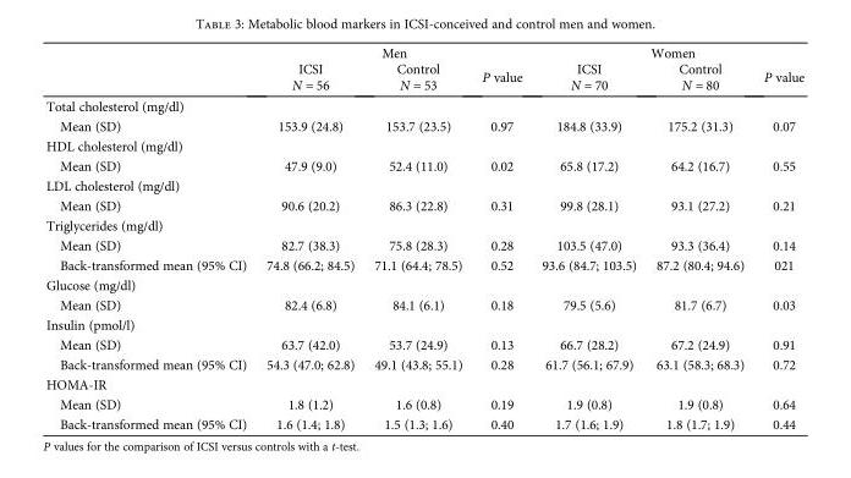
<table><thead><tr><td rowspan="2"></td><td colspan="3">Men</td><td colspan="3">Women</td></tr><tr><td>ICSI N = 56</td><td>Control N = 53</td><td>P value</td><td>ICSI N = 70</td><td>Control N = 80</td><td>P value</td></tr></thead><tbody><tr><td colspan="7">Total cholesterol (mg/dl)</td></tr><tr><td>Mean (SD)</td><td>153.9 (24.8)</td><td>153.7 (23.5)</td><td>0.97</td><td>184.8 (33.9)</td><td>175.2 (31.3)</td><td>0.07</td></tr><tr><td colspan="7">HDL cholesterol (mg/dl)</td></tr><tr><td>Mean (SD)</td><td>47.9 (9.0)</td><td>52.4 (11.0)</td><td>0.02</td><td>65.8 (17.2)</td><td>64.2 (16.7)</td><td>0.55</td></tr><tr><td colspan="7">LDL cholesterol (mg/dl)</td></tr><tr><td>Mean (SD)</td><td>90.6 (20.2)</td><td>86.3 (22.8)</td><td>0.31</td><td>99.8 (28.1)</td><td>93.1 (27.2)</td><td>0.21</td></tr><tr><td colspan="7">Triglycerides (mg/dl)</td></tr><tr><td>Mean (SD)</td><td>82.7 (38.3)</td><td>75.8 (28.3)</td><td>0.28</td><td>103.5 (47.0)</td><td>93.3 (36.4)</td><td>0.14</td></tr><tr><td>Back-transformed mean (95% CI)</td><td>74.8 (66.2; 84.5)</td><td>71.1 (64.4; 78.5)</td><td>0.52</td><td>93.6 (84.7; 103.5)</td><td>87.2 (80.4; 94.6)</td><td>021</td></tr><tr><td colspan="7">Glucose (mg/dl)</td></tr><tr><td>Mean (SD)</td><td>82.4 (6.8)</td><td>84.1 (6.1)</td><td>0.18</td><td>79.5 (5.6)</td><td>81.7 (6.7)</td><td>0.03</td></tr><tr><td colspan="7">Insulin (pmol/l)</td></tr><tr><td>Mean (SD)</td><td>63.7 (42.0)</td><td>53.7 (24.9)</td><td>0.13</td><td>66.7 (28.2)</td><td>67.2 (24.9)</td><td>0.91</td></tr><tr><td>Back-transformed mean (95% CI)</td><td>54.3 (47.0; 62.8)</td><td>49.1 (43.8; 55.1)</td><td>0.28</td><td>61.7 (56.1; 67.9)</td><td>63.1 (58.3; 68.3)</td><td>0.72</td></tr><tr><td colspan="7">HOMA-IR</td></tr><tr><td>Mean (SD)</td><td>1.8 (1.2)</td><td>1.6 (0.8)</td><td>0.19</td><td>1.9 (0.8)</td><td>1.9 (0.8)</td><td>0.64</td></tr><tr><td>Back-transformed mean (95% CI)</td><td>1.6 (1.4; 1.8)</td><td>1.5 (1.3; 1.6)</td><td>0.40</td><td>1.7 (1.6; 1.9)</td><td>1.8 (1.7; 1.9)</td><td>0.44</td></tr></tbody></table>